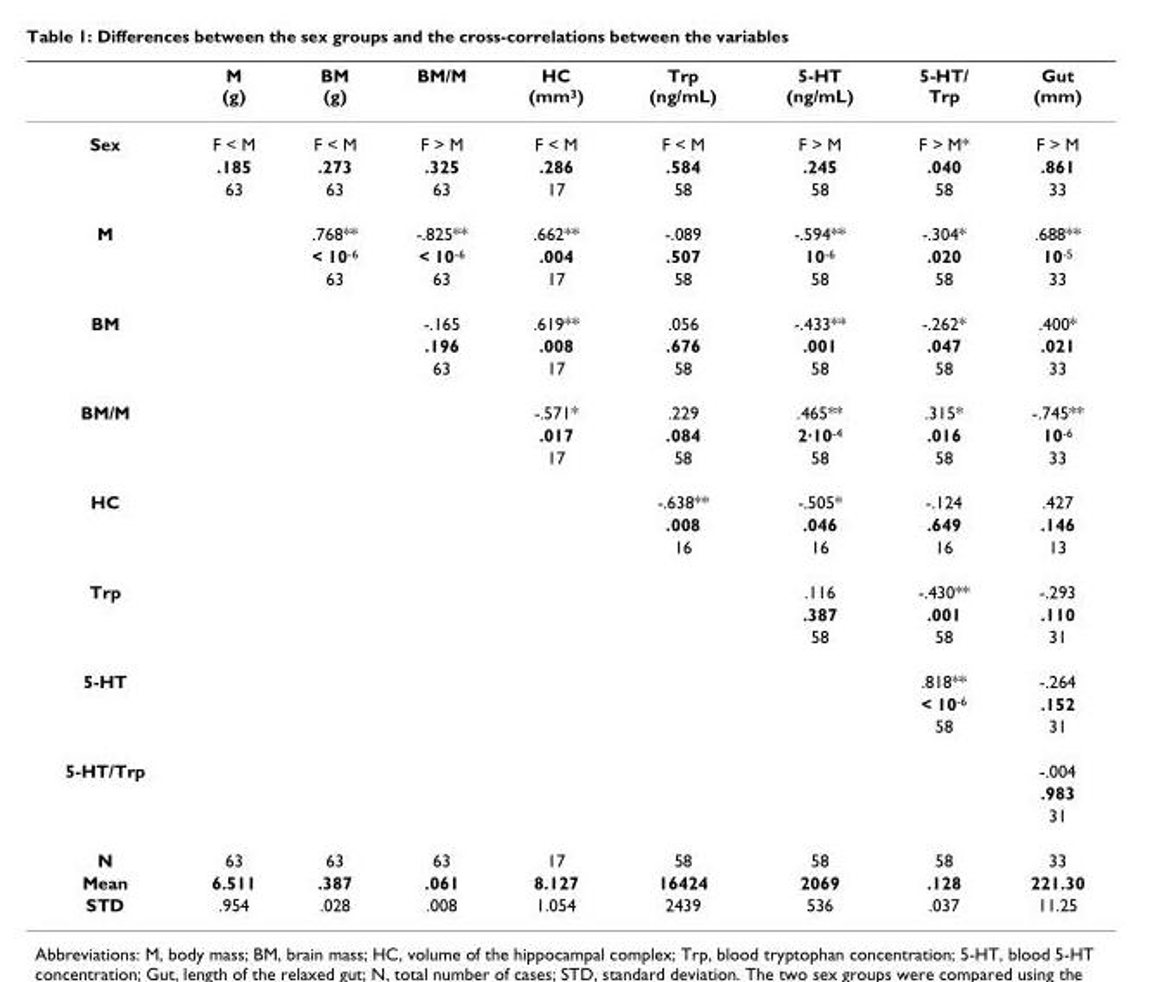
<table><thead><tr><td></td><td>M (g)</td><td>BM (g)</td><td>BM/M</td><td>HC (mm<sup>3</sup>)</td><td>Trp (ng/mL)</td><td>5-HT (ng/mL)</td><td>5-HT/ Trp</td><td>Gut (mm)</td></tr></thead><tbody><tr><td rowspan="3">Sex</td><td>F &lt; M</td><td>F &lt; M</td><td>F &gt; M</td><td>F &lt; M</td><td>F &lt; M</td><td>F &gt; M</td><td>F &gt; M*</td><td>F &gt; M</td></tr><tr><td>.185</td><td>.273</td><td>.325</td><td>.286</td><td>.584</td><td>.245</td><td>.040</td><td>.861</td></tr><tr><td>63</td><td>63</td><td>63</td><td>17</td><td>58</td><td>58</td><td>58</td><td>33</td></tr><tr><td rowspan="3">M</td><td></td><td>.768**</td><td>-.825**</td><td>.662**</td><td>-.089</td><td>-.594**</td><td>-.304*</td><td>.688**</td></tr><tr><td></td><td>&lt; 10<sup>-6</sup></td><td>&lt; 10<sup>-6</sup></td><td>.004</td><td>.507</td><td>10<sup>-6</sup></td><td>.020</td><td>10<sup>-5</sup></td></tr><tr><td></td><td>63</td><td>63</td><td>17</td><td>58</td><td>58</td><td>58</td><td>33</td></tr><tr><td rowspan="3">BM</td><td></td><td></td><td>-.165</td><td>.619**</td><td>.056</td><td>-.433**</td><td>-.262*</td><td>.400*</td></tr><tr><td></td><td></td><td>.196</td><td>.008</td><td>.676</td><td>.001</td><td>.047</td><td>.021</td></tr><tr><td></td><td></td><td>63</td><td>17</td><td>58</td><td>58</td><td>58</td><td>33</td></tr><tr><td rowspan="3">BM/M</td><td></td><td></td><td></td><td>-.571*</td><td>.229</td><td>.465**</td><td>.315*</td><td>-.745**</td></tr><tr><td></td><td></td><td></td><td>.017</td><td>.084</td><td>2·10<sup>-4</sup></td><td>.016</td><td>10<sup>-6</sup></td></tr><tr><td></td><td></td><td></td><td>17</td><td>58</td><td>58</td><td>58</td><td>33</td></tr><tr><td rowspan="3">HC</td><td></td><td></td><td></td><td></td><td>-.638**</td><td>-.505*</td><td>-.124</td><td>.427</td></tr><tr><td></td><td></td><td></td><td></td><td>.008</td><td>.046</td><td>.649</td><td>.146</td></tr><tr><td></td><td></td><td></td><td></td><td>16</td><td>16</td><td>16</td><td>13</td></tr><tr><td rowspan="3">Trp</td><td></td><td></td><td></td><td></td><td></td><td>.116</td><td>-.430**</td><td>-.293</td></tr><tr><td></td><td></td><td></td><td></td><td></td><td>.387</td><td>.001</td><td>.110</td></tr><tr><td></td><td></td><td></td><td></td><td></td><td>58</td><td>58</td><td>31</td></tr><tr><td rowspan="3">5-HT</td><td></td><td></td><td></td><td></td><td></td><td></td><td>.818**</td><td>-.264</td></tr><tr><td></td><td></td><td></td><td></td><td></td><td></td><td>&lt; 10<sup>-6</sup></td><td>.152</td></tr><tr><td></td><td></td><td></td><td></td><td></td><td></td><td>58</td><td>31</td></tr><tr><td rowspan="3">5-HT/Trp</td><td></td><td></td><td></td><td></td><td></td><td></td><td></td><td>-.004</td></tr><tr><td></td><td></td><td></td><td></td><td></td><td></td><td></td><td>.983</td></tr><tr><td></td><td></td><td></td><td></td><td></td><td></td><td></td><td>31</td></tr><tr><td>N</td><td>63</td><td>63</td><td>63</td><td>17</td><td>58</td><td>58</td><td>58</td><td>33</td></tr><tr><td>Mean</td><td>6.511</td><td>.387</td><td>.061</td><td>8.127</td><td>16424</td><td>2069</td><td>.128</td><td>221.30</td></tr><tr><td>STD</td><td>.954</td><td>.028</td><td>.008</td><td>1.054</td><td>2439</td><td>536</td><td>.037</td><td>11.25</td></tr></tbody></table>